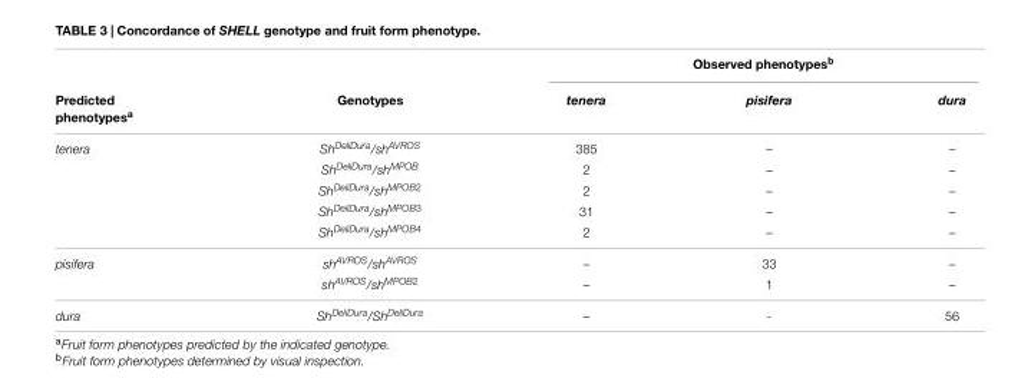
<table><thead><tr><td rowspan="2">Predicted phenotypes<sup>a</sup></td><td rowspan="2">Genotypes</td><td colspan="3">Observed phenotypes<sup>b</sup></td></tr><tr><td>tenera</td><td>pisifera</td><td>dura</td></tr></thead><tbody><tr><td rowspan="5">tenera</td><td>Sh<sup>DeliDura</sup>/sh<sup>AVROS</sup></td><td>385</td><td>–</td><td>–</td></tr><tr><td>Sh<sup>DeliDura</sup>/sh<sup>MPOB</sup></td><td>2</td><td>–</td><td>–</td></tr><tr><td>Sh<sup>DeliDura</sup>/sh<sup>MPOB2</sup></td><td>2</td><td>–</td><td>–</td></tr><tr><td>Sh<sup>DeliDura</sup>/sh<sup>MPOB3</sup></td><td>31</td><td>–</td><td>–</td></tr><tr><td>Sh<sup>DeliDura</sup>/sh<sup>MPOB4</sup></td><td>2</td><td>–</td><td>–</td></tr><tr><td rowspan="2">pisifera</td><td>sh<sup>AVROS</sup>/sh<sup>AVROS</sup></td><td>–</td><td>33</td><td>–</td></tr><tr><td>sh<sup>AVROS</sup>/sh<sup>MPOB2</sup></td><td>–</td><td>1</td><td>–</td></tr><tr><td>dura</td><td>Sh<sup>DeliDura</sup>/Sh<sup>DeliDura</sup></td><td>–</td><td>-</td><td>56</td></tr></tbody></table>